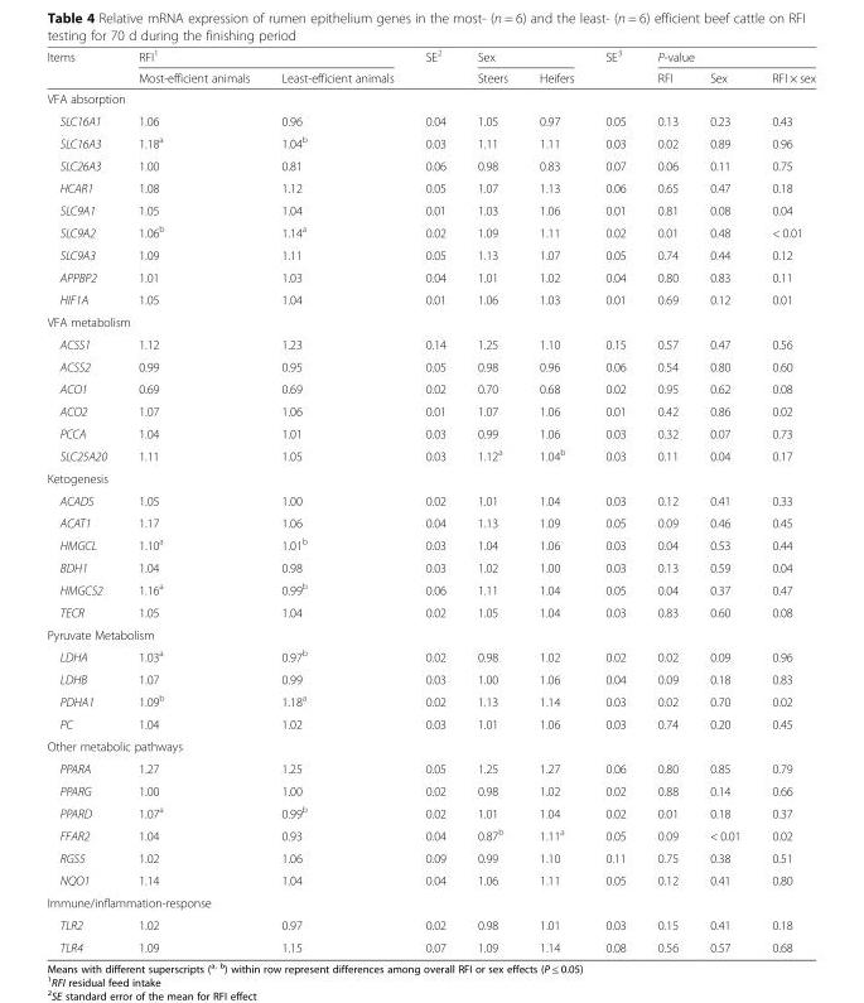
<table><thead><tr><td rowspan="2">Items</td><td colspan="2">RFI<sup>1</sup></td><td rowspan="2">SE<sup>2</sup></td><td colspan="2">Sex</td><td rowspan="2">SE<sup>3</sup></td><td colspan="3">P-value</td></tr><tr><td>Most-efficient animals</td><td>Least-efficient animals</td><td>Steers</td><td>Heifers</td><td>RFI</td><td>Sex</td><td>RFI × sex</td></tr></thead><tbody><tr><td colspan="10">VFA absorption</td></tr><tr><td>SLC16A1</td><td>1.06</td><td>0.96</td><td>0.04</td><td>1.05</td><td>0.97</td><td>0.05</td><td>0.13</td><td>0.23</td><td>0.43</td></tr><tr><td>SLC16A3</td><td>1.18<sup>a</sup></td><td>1.04<sup>b</sup></td><td>0.03</td><td>1.11</td><td>1.11</td><td>0.03</td><td>0.02</td><td>0.89</td><td>0.96</td></tr><tr><td>SLC26A3</td><td>1.00</td><td>0.81</td><td>0.06</td><td>0.98</td><td>0.83</td><td>0.07</td><td>0.06</td><td>0.11</td><td>0.75</td></tr><tr><td>HCAR1</td><td>1.08</td><td>1.12</td><td>0.05</td><td>1.07</td><td>1.13</td><td>0.06</td><td>0.65</td><td>0.47</td><td>0.18</td></tr><tr><td>SLC9A1</td><td>1.05</td><td>1.04</td><td>0.01</td><td>1.03</td><td>1.06</td><td>0.01</td><td>0.81</td><td>0.08</td><td>0.04</td></tr><tr><td>SLC9A2</td><td>1.06<sup>b</sup></td><td>1.14<sup>a</sup></td><td>0.02</td><td>1.09</td><td>1.11</td><td>0.02</td><td>0.01</td><td>0.48</td><td>&lt; 0.01</td></tr><tr><td>SLC9A3</td><td>1.09</td><td>1.11</td><td>0.05</td><td>1.13</td><td>1.07</td><td>0.05</td><td>0.74</td><td>0.44</td><td>0.12</td></tr><tr><td>APPBP2</td><td>1.01</td><td>1.03</td><td>0.04</td><td>1.01</td><td>1.02</td><td>0.04</td><td>0.80</td><td>0.83</td><td>0.11</td></tr><tr><td>HIF1A</td><td>1.05</td><td>1.04</td><td>0.01</td><td>1.06</td><td>1.03</td><td>0.01</td><td>0.69</td><td>0.12</td><td>0.01</td></tr><tr><td colspan="10">VFA metabolism</td></tr><tr><td>ACSS1</td><td>1.12</td><td>1.23</td><td>0.14</td><td>1.25</td><td>1.10</td><td>0.15</td><td>0.57</td><td>0.47</td><td>0.56</td></tr><tr><td>ACSS2</td><td>0.99</td><td>0.95</td><td>0.05</td><td>0.98</td><td>0.96</td><td>0.06</td><td>0.54</td><td>0.80</td><td>0.60</td></tr><tr><td>ACO1</td><td>0.69</td><td>0.69</td><td>0.02</td><td>0.70</td><td>0.68</td><td>0.02</td><td>0.95</td><td>0.62</td><td>0.08</td></tr><tr><td>ACO2</td><td>1.07</td><td>1.06</td><td>0.01</td><td>1.07</td><td>1.06</td><td>0.01</td><td>0.42</td><td>0.86</td><td>0.02</td></tr><tr><td>PCCA</td><td>1.04</td><td>1.01</td><td>0.03</td><td>0.99</td><td>1.06</td><td>0.03</td><td>0.32</td><td>0.07</td><td>0.73</td></tr><tr><td>SLC25A20</td><td>1.11</td><td>1.05</td><td>0.03</td><td>1.12<sup>a</sup></td><td>1.04<sup>b</sup></td><td>0.03</td><td>0.11</td><td>0.04</td><td>0.17</td></tr><tr><td colspan="10">Ketogenesis</td></tr><tr><td>ACADS</td><td>1.05</td><td>1.00</td><td>0.02</td><td>1.01</td><td>1.04</td><td>0.03</td><td>0.12</td><td>0.41</td><td>0.33</td></tr><tr><td>ACAT1</td><td>1.17</td><td>1.06</td><td>0.04</td><td>1.13</td><td>1.09</td><td>0.05</td><td>0.09</td><td>0.46</td><td>0.45</td></tr><tr><td>HMGCL</td><td>1.10<sup>a</sup></td><td>1.01<sup>b</sup></td><td>0.03</td><td>1.04</td><td>1.06</td><td>0.03</td><td>0.04</td><td>0.53</td><td>0.44</td></tr><tr><td>BDH1</td><td>1.04</td><td>0.98</td><td>0.03</td><td>1.02</td><td>1.00</td><td>0.03</td><td>0.13</td><td>0.59</td><td>0.04</td></tr><tr><td>HMGCS2</td><td>1.16<sup>a</sup></td><td>0.99<sup>b</sup></td><td>0.06</td><td>1.11</td><td>1.04</td><td>0.05</td><td>0.04</td><td>0.37</td><td>0.47</td></tr><tr><td>TECR</td><td>1.05</td><td>1.04</td><td>0.02</td><td>1.05</td><td>1.04</td><td>0.03</td><td>0.83</td><td>0.60</td><td>0.08</td></tr><tr><td colspan="10">Pyruvate Metabolism</td></tr><tr><td>LDHA</td><td>1.03<sup>a</sup></td><td>0.97<sup>b</sup></td><td>0.02</td><td>0.98</td><td>1.02</td><td>0.02</td><td>0.02</td><td>0.09</td><td>0.96</td></tr><tr><td>LDHB</td><td>1.07</td><td>0.99</td><td>0.03</td><td>1.00</td><td>1.06</td><td>0.04</td><td>0.09</td><td>0.18</td><td>0.83</td></tr><tr><td>PDHA1</td><td>1.09<sup>b</sup></td><td>1.18<sup>a</sup></td><td>0.02</td><td>1.13</td><td>1.14</td><td>0.03</td><td>0.02</td><td>0.70</td><td>0.02</td></tr><tr><td>PC</td><td>1.04</td><td>1.02</td><td>0.03</td><td>1.01</td><td>1.06</td><td>0.03</td><td>0.74</td><td>0.20</td><td>0.45</td></tr><tr><td colspan="10">Other metabolic pathways</td></tr><tr><td>PPARA</td><td>1.27</td><td>1.25</td><td>0.05</td><td>1.25</td><td>1.27</td><td>0.06</td><td>0.80</td><td>0.85</td><td>0.79</td></tr><tr><td>PPARG</td><td>1.00</td><td>1.00</td><td>0.02</td><td>0.98</td><td>1.02</td><td>0.02</td><td>0.88</td><td>0.14</td><td>0.66</td></tr><tr><td>PPARD</td><td>1.07<sup>a</sup></td><td>0.99<sup>b</sup></td><td>0.02</td><td>1.01</td><td>1.04</td><td>0.02</td><td>0.01</td><td>0.18</td><td>0.37</td></tr><tr><td>FFAR2</td><td>1.04</td><td>0.93</td><td>0.04</td><td>0.87<sup>b</sup></td><td>1.11<sup>a</sup></td><td>0.05</td><td>0.09</td><td>&lt; 0.01</td><td>0.02</td></tr><tr><td>RGS5</td><td>1.02</td><td>1.06</td><td>0.09</td><td>0.99</td><td>1.10</td><td>0.11</td><td>0.75</td><td>0.38</td><td>0.51</td></tr><tr><td>NQO1</td><td>1.14</td><td>1.04</td><td>0.04</td><td>1.06</td><td>1.11</td><td>0.05</td><td>0.12</td><td>0.41</td><td>0.80</td></tr><tr><td colspan="10">Immune/inflammation-response</td></tr><tr><td>TLR2</td><td>1.02</td><td>0.97</td><td>0.02</td><td>0.98</td><td>1.01</td><td>0.03</td><td>0.15</td><td>0.41</td><td>0.18</td></tr><tr><td>TLR4</td><td>1.09</td><td>1.15</td><td>0.07</td><td>1.09</td><td>1.14</td><td>0.08</td><td>0.56</td><td>0.57</td><td>0.68</td></tr></tbody></table>